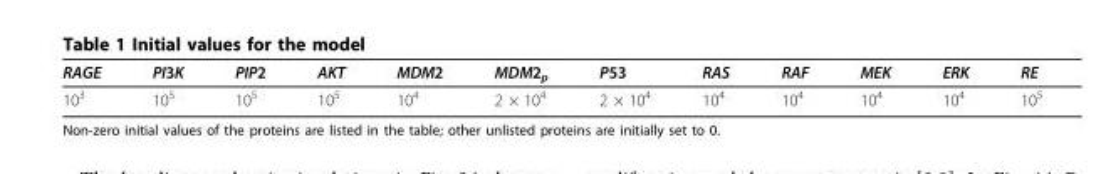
<table><thead><tr><td>RAGE</td><td>PI3K</td><td>PIP2</td><td>AKT</td><td>MDM2</td><td>MDM2<sub>p</sub></td><td>P53</td><td>RAS</td><td>RAF</td><td>MEK</td><td>ERK</td><td>RE</td></tr></thead><tbody><tr><td>10<sup>3</sup></td><td>10<sup>5</sup></td><td>10<sup>5</sup></td><td>10<sup>5</sup></td><td>10<sup>4</sup></td><td>2 × 10<sup>4</sup></td><td>2 × 10<sup>4</sup></td><td>10<sup>4</sup></td><td>10<sup>4</sup></td><td>10<sup>4</sup></td><td>10<sup>4</sup></td><td>10<sup>5</sup></td></tr></tbody></table>